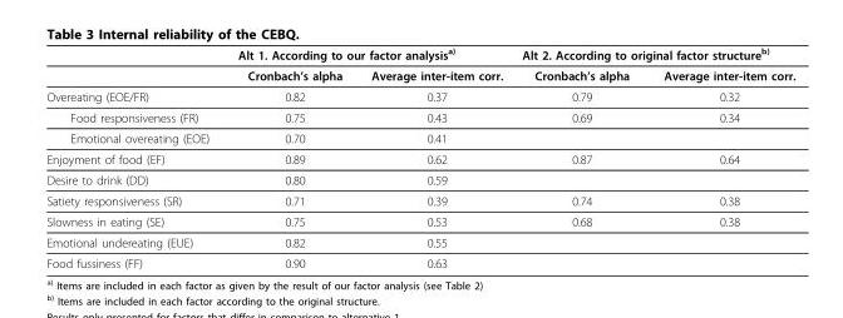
<table><thead><tr><td rowspan="2"></td><td colspan="2">Alt 1. According to our factor analysis<sup>a)</sup></td><td colspan="2">Alt 2. According to original factor structure<sup>b)</sup></td></tr><tr><td>Cronbach’s alpha</td><td>Average inter-item corr.</td><td>Cronbach’s alpha</td><td>Average inter-item corr.</td></tr></thead><tbody><tr><td>Overeating (EOE/FR)</td><td>0.82</td><td>0.37</td><td>0.79</td><td>0.32</td></tr><tr><td>Food responsiveness (FR)</td><td>0.75</td><td>0.43</td><td>0.69</td><td>0.34</td></tr><tr><td>Emotional overeating (EOE)</td><td>0.70</td><td>0.41</td><td></td><td></td></tr><tr><td>Enjoyment of food (EF)</td><td>0.89</td><td>0.62</td><td>0.87</td><td>0.64</td></tr><tr><td>Desire to drink (DD)</td><td>0.80</td><td>0.59</td><td></td><td></td></tr><tr><td>Satiety responsiveness (SR)</td><td>0.71</td><td>0.39</td><td>0.74</td><td>0.38</td></tr><tr><td>Slowness in eating (SE)</td><td>0.75</td><td>0.53</td><td>0.68</td><td>0.38</td></tr><tr><td>Emotional undereating (EUE)</td><td>0.82</td><td>0.55</td><td></td><td></td></tr><tr><td>Food fussiness (FF)</td><td>0.90</td><td>0.63</td><td></td><td></td></tr></tbody></table>